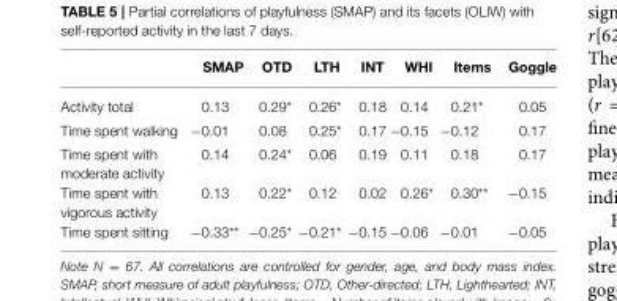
<table><thead><tr><td></td><td>SMAP</td><td>OTD</td><td>LTH</td><td>INT</td><td>WHI</td><td>Items</td><td>Goggle</td></tr></thead><tbody><tr><td>Activity total</td><td>0.13</td><td>0.29*</td><td>0.26*</td><td>0.18</td><td>0.14</td><td>0.21*</td><td>0.05</td></tr><tr><td>Time spent walking</td><td>−0.01</td><td>0.08</td><td>0.25*</td><td>0.17</td><td>−0.15</td><td>−0.12</td><td>0.17</td></tr><tr><td>Time spent with moderate activity</td><td>0.14</td><td>0.24*</td><td>0.06</td><td>0.19</td><td>0.11</td><td>0.18</td><td>0.17</td></tr><tr><td>Time spent with vigorous activity</td><td>0.13</td><td>0.22*</td><td>0.12</td><td>0.02</td><td>0.26*</td><td>0.30**</td><td>−0.15</td></tr><tr><td>Time spent sitting</td><td>−0.33**</td><td>−0.25*</td><td>−0.21*</td><td>−0.15</td><td>−0.06</td><td>−0.01</td><td>−0.05</td></tr></tbody></table>